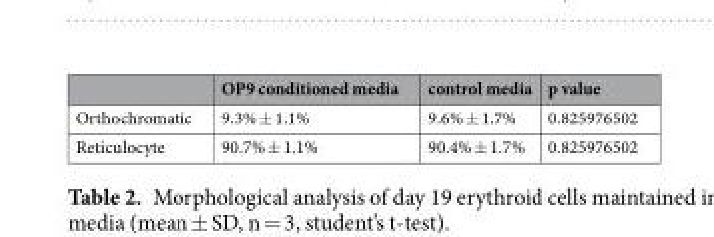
<table><thead><tr><td></td><td>OP9 conditioned media</td><td>control media</td><td>p value</td></tr></thead><tbody><tr><td>Orthochromatic</td><td>9.3% ± 1.1%</td><td>9.6% ± 1.7%</td><td>0.825976502</td></tr><tr><td>Reticulocyte</td><td>90.7% ± 1.1%</td><td>90.4% ± 1.7%</td><td>0.825976502</td></tr></tbody></table>